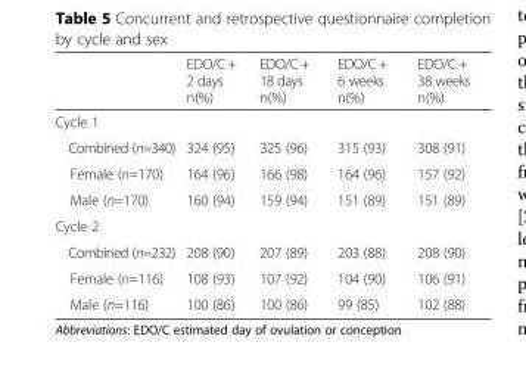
<table><thead><tr><td></td><td>EDO/C + 2 days n(%)</td><td>EDO/C + 18 days n(%)</td><td>EDO/C + 6 weeks n(%)</td><td>EDO/C + 38 weeks n(%)</td></tr></thead><tbody><tr><td colspan="5">Cycle 1</td></tr><tr><td>Combined (n=340)</td><td>324 (95)</td><td>325 (96)</td><td>315 (93)</td><td>308 (91)</td></tr><tr><td>Female (n=170)</td><td>164 (96)</td><td>166 (98)</td><td>164 (96)</td><td>157 (92)</td></tr><tr><td>Male (n=170)</td><td>160 (94)</td><td>159 (94)</td><td>151 (89)</td><td>151 (89)</td></tr><tr><td colspan="5">Cycle 2</td></tr><tr><td>Combined (n=232)</td><td>208 (90)</td><td>207 (89)</td><td>203 (88)</td><td>208 (90)</td></tr><tr><td>Female (n=116)</td><td>108 (93)</td><td>107 (92)</td><td>104 (90)</td><td>106 (91)</td></tr><tr><td>Male (n=116)</td><td>100 (86)</td><td>100 (86)</td><td>99 (85)</td><td>102 (88)</td></tr></tbody></table>